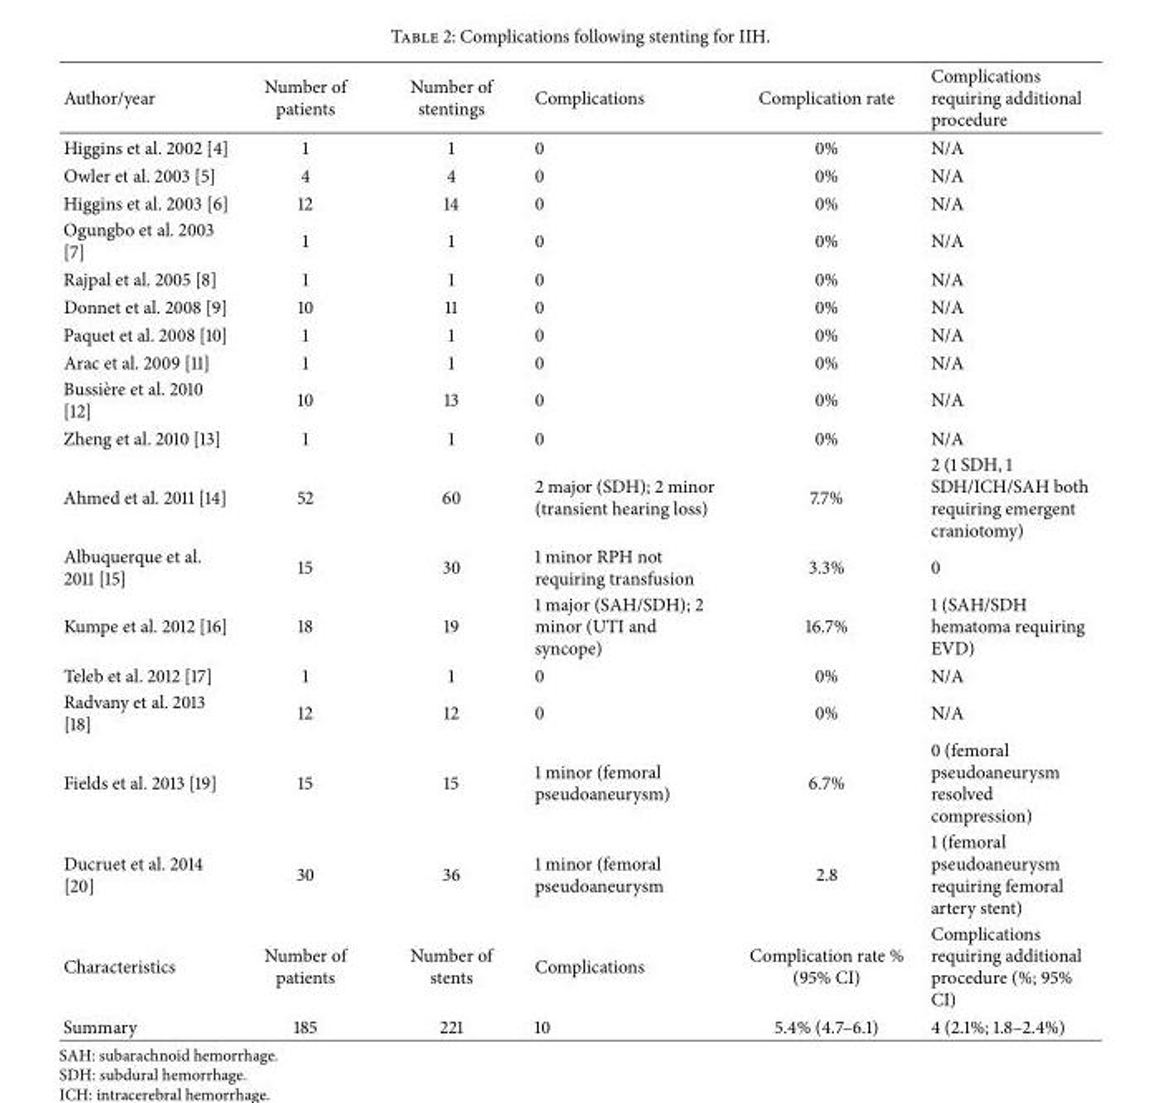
<table><thead><tr><td>Author/year</td><td>Number of patients</td><td>Number of stentings</td><td>Complications</td><td>Complication rate</td><td>Complications requiring additional procedure</td></tr></thead><tbody><tr><td>Higgins et al. 2002 [4]</td><td>1</td><td>1</td><td>0</td><td>0%</td><td>N/A</td></tr><tr><td>Owler et al. 2003 [5]</td><td>4</td><td>4</td><td>0</td><td>0%</td><td>N/A</td></tr><tr><td>Higgins et al. 2003 [6]</td><td>12</td><td>14</td><td>0</td><td>0%</td><td>N/A</td></tr><tr><td>Ogungbo et al. 2003 [7]</td><td>1</td><td>1</td><td>0</td><td>0%</td><td>N/A</td></tr><tr><td>Rajpal et al. 2005 [8]</td><td>1</td><td>1</td><td>0</td><td>0%</td><td>N/A</td></tr><tr><td>Donnet et al. 2008 [9]</td><td>10</td><td>11</td><td>0</td><td>0%</td><td>N/A</td></tr><tr><td>Paquet et al. 2008 [10]</td><td>1</td><td>1</td><td>0</td><td>0%</td><td>N/A</td></tr><tr><td>Arac et al. 2009 [11]</td><td>1</td><td>1</td><td>0</td><td>0%</td><td>N/A</td></tr><tr><td>Bussi`ere et al. 2010 [12]</td><td>10</td><td>13</td><td>0</td><td>0%</td><td>N/A</td></tr><tr><td>Zheng et al. 2010 [13]</td><td>1</td><td>1</td><td>0</td><td>0%</td><td>N/A</td></tr><tr><td>Ahmed et al. 2011 [14]</td><td>52</td><td>60</td><td>2 major (SDH); 2 minor (transient hearing loss)</td><td>7.7%</td><td>2 (1 SDH, 1 SDH/ICH/SAH both requiring emergent craniotomy)</td></tr><tr><td>Albuquerque et al. 2011 [15]</td><td>15</td><td>30</td><td>1 minor RPH not requiring transfusion</td><td>3.3%</td><td>0</td></tr><tr><td>Kumpe et al. 2012 [16]</td><td>18</td><td>19</td><td>1 major (SAH/SDH); 2 minor (UTI and syncope)</td><td>16.7%</td><td>1 (SAH/SDH hematoma requiring EVD)</td></tr><tr><td>Teleb et al. 2012 [17]</td><td>1</td><td>1</td><td>0</td><td>0%</td><td>N/A</td></tr><tr><td>Radvany et al. 2013 [18]</td><td>12</td><td>12</td><td>0</td><td>0%</td><td>N/A</td></tr><tr><td>Fields et al. 2013 [19]</td><td>15</td><td>15</td><td>1 minor (femoral pseudoaneurysm)</td><td>6.7%</td><td>0 (femoral pseudoaneurysm resolved compression)</td></tr><tr><td>Ducruet et al. 2014 [20]</td><td>30</td><td>36</td><td>1 minor (femoral pseudoaneurysm</td><td>2.8</td><td>1 (femoral pseudoaneurysm requiring femoral artery stent)</td></tr><tr><td>Characteristics</td><td>Number of patients</td><td>Number of stents</td><td>Complications</td><td>Complication rate % (95% CI)</td><td>Complications requiring additional procedure (%; 95% CI)</td></tr><tr><td>Summary</td><td>185</td><td>221</td><td>10</td><td>5.4% (4.7–6.1)</td><td>4 (2.1%; 1.8–2.4%)</td></tr></tbody></table>